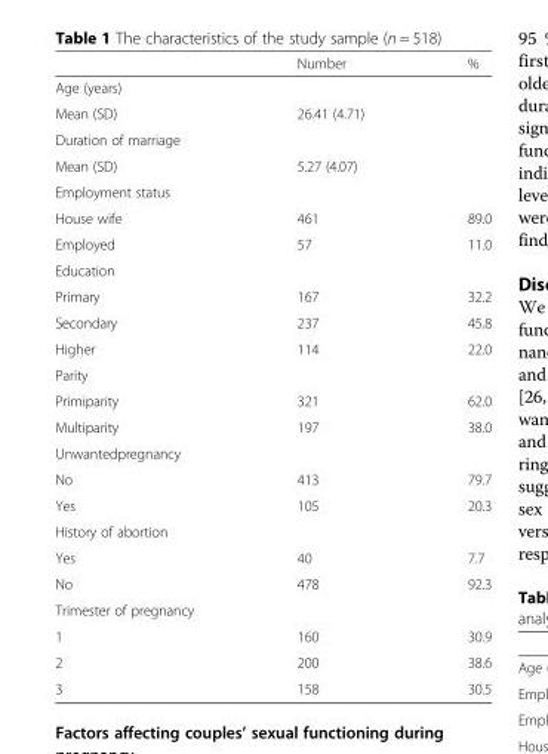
<table><thead><tr><td></td><td>Number</td><td>%</td></tr></thead><tbody><tr><td colspan="3">Age (years)</td></tr><tr><td>Mean (SD)</td><td>26.41 (4.71)</td><td></td></tr><tr><td colspan="3">Duration of marriage</td></tr><tr><td>Mean (SD)</td><td>5.27 (4.07)</td><td></td></tr><tr><td colspan="3">Employment status</td></tr><tr><td>House wife</td><td>461</td><td>89.0</td></tr><tr><td>Employed</td><td>57</td><td>11.0</td></tr><tr><td colspan="3">Education</td></tr><tr><td>Primary</td><td>167</td><td>32.2</td></tr><tr><td>Secondary</td><td>237</td><td>45.8</td></tr><tr><td>Higher</td><td>114</td><td>22.0</td></tr><tr><td colspan="3">Parity</td></tr><tr><td>Primiparity</td><td>321</td><td>62.0</td></tr><tr><td>Multiparity</td><td>197</td><td>38.0</td></tr><tr><td colspan="3">Unwantedpregnancy</td></tr><tr><td>No</td><td>413</td><td>79.7</td></tr><tr><td>Yes</td><td>105</td><td>20.3</td></tr><tr><td colspan="3">History of abortion</td></tr><tr><td>Yes</td><td>40</td><td>7.7</td></tr><tr><td>No</td><td>478</td><td>92.3</td></tr><tr><td colspan="3">Trimester of pregnancy</td></tr><tr><td>1</td><td>160</td><td>30.9</td></tr><tr><td>2</td><td>200</td><td>38.6</td></tr><tr><td>3</td><td>158</td><td>30.5</td></tr></tbody></table>